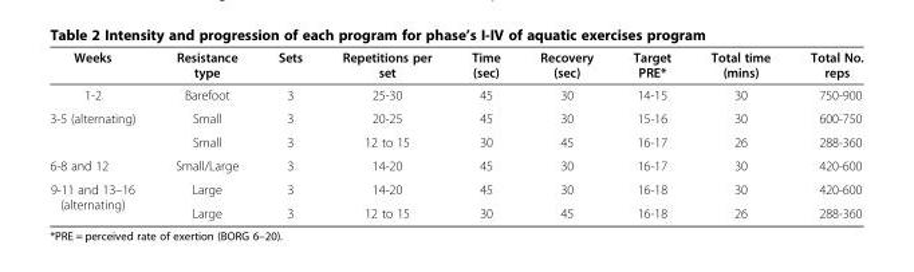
<table><thead><tr><td>Weeks</td><td>Resistance type</td><td>Sets</td><td>Repetitions per set</td><td>Time (sec)</td><td>Recovery (sec)</td><td>Target PRE*</td><td>Total time (mins)</td><td>Total No. reps</td></tr></thead><tbody><tr><td>1-2</td><td>Barefoot</td><td>3</td><td>25-30</td><td>45</td><td>30</td><td>14-15</td><td>30</td><td>750-900</td></tr><tr><td rowspan="2">3-5 (alternating)</td><td>Small</td><td>3</td><td>20-25</td><td>45</td><td>30</td><td>15-16</td><td>30</td><td>600-750</td></tr><tr><td>Small</td><td>3</td><td>12 to 15</td><td>30</td><td>45</td><td>16-17</td><td>26</td><td>288-360</td></tr><tr><td>6-8 and 12</td><td>Small/Large</td><td>3</td><td>14-20</td><td>45</td><td>30</td><td>16-17</td><td>30</td><td>420-600</td></tr><tr><td rowspan="2">9-11 and 13–16 (alternating)</td><td>Large</td><td>3</td><td>14-20</td><td>45</td><td>30</td><td>16-18</td><td>30</td><td>420-600</td></tr><tr><td>Large</td><td>3</td><td>12 to 15</td><td>30</td><td>45</td><td>16-18</td><td>26</td><td>288-360</td></tr></tbody></table>